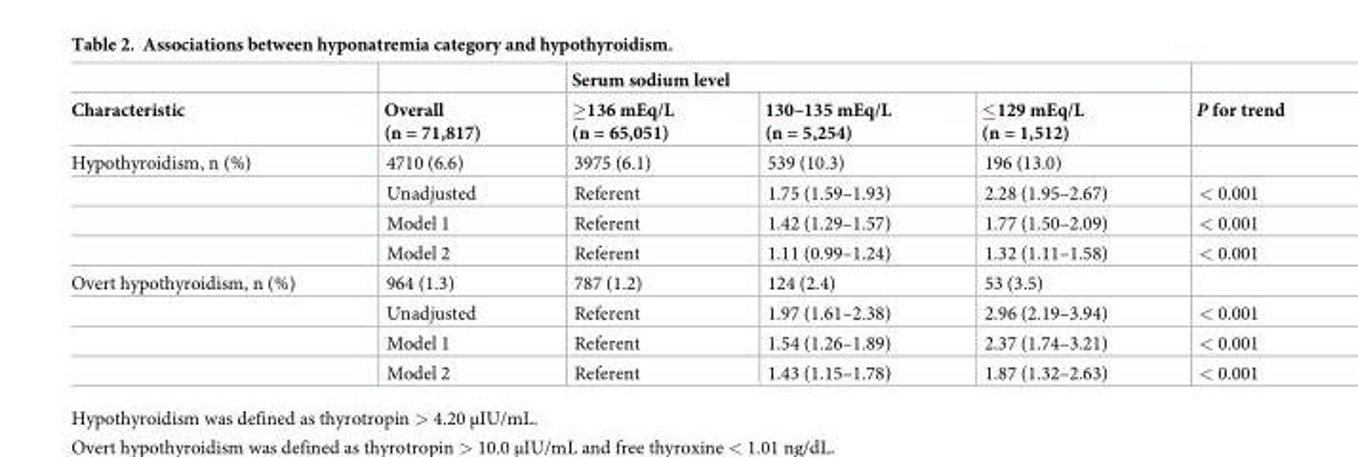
<table><thead><tr><td rowspan="2">Characteristic</td><td rowspan="2">Overall (n = 71,817)</td><td colspan="3">Serum sodium level</td><td rowspan="2">P for trend</td></tr><tr><td>≥136 mEq/L (n = 65,051)</td><td>130–135 mEq/L (n = 5,254)</td><td>≤129 mEq/L (n = 1,512)</td></tr></thead><tbody><tr><td rowspan="4">Hypothyroidism, n (%)</td><td>4710 (6.6)</td><td>3975 (6.1)</td><td>539 (10.3)</td><td>196 (13.0)</td><td></td></tr><tr><td>Unadjusted</td><td>Referent</td><td>1.75 (1.59–1.93)</td><td>2.28 (1.95–2.67)</td><td>&lt; 0.001</td></tr><tr><td>Model 1</td><td>Referent</td><td>1.42 (1.29–1.57)</td><td>1.77 (1.50–2.09)</td><td>&lt; 0.001</td></tr><tr><td>Model 2</td><td>Referent</td><td>1.11 (0.99–1.24)</td><td>1.32 (1.11–1.58)</td><td>&lt; 0.001</td></tr><tr><td rowspan="4">Overt hypothyroidism, n (%)</td><td>964 (1.3)</td><td>787 (1.2)</td><td>124 (2.4)</td><td>53 (3.5)</td><td></td></tr><tr><td>Unadjusted</td><td>Referent</td><td>1.97 (1.61–2.38)</td><td>2.96 (2.19–3.94)</td><td>&lt; 0.001</td></tr><tr><td>Model 1</td><td>Referent</td><td>1.54 (1.26–1.89)</td><td>2.37 (1.74–3.21)</td><td>&lt; 0.001</td></tr><tr><td>Model 2</td><td>Referent</td><td>1.43 (1.15–1.78)</td><td>1.87 (1.32–2.63)</td><td>&lt; 0.001</td></tr></tbody></table>